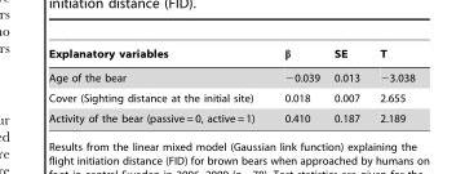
<table><thead><tr><td>Explanatory variables</td><td>β</td><td>SE</td><td>T</td></tr></thead><tbody><tr><td>Age of the bear</td><td>−0.039</td><td>0.013</td><td>−3.038</td></tr><tr><td>Cover (Sighting distance at the initial site)</td><td>0.018</td><td>0.007</td><td>2.655</td></tr><tr><td>Activity of the bear (passive = 0, active = 1)</td><td>0.410</td><td>0.187</td><td>2.189</td></tr></tbody></table>